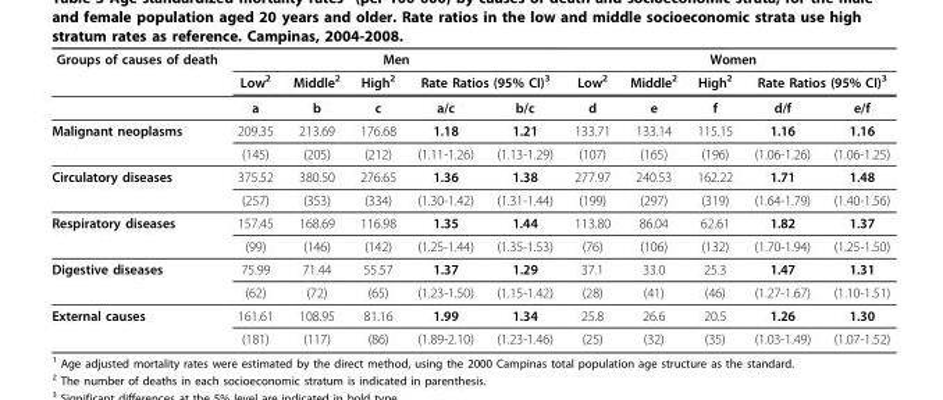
<table><thead><tr><td rowspan="3">Groups of causes of death</td><td colspan="5">Men</td><td colspan="5">Women</td></tr><tr><td rowspan="2">Low2 a</td><td rowspan="2">Middle2 b</td><td rowspan="2">High2 c</td><td colspan="2">Rate Ratios (95% CI)3</td><td rowspan="2">Low2 d</td><td rowspan="2">Middle2 e</td><td rowspan="2">High2 f</td><td colspan="2">Rate Ratios (95% CI)3</td></tr><tr><td>a/c</td><td>b/c</td><td>d/f</td><td>e/f</td></tr></thead><tbody><tr><td rowspan="2">Malignant neoplasms</td><td>209.35</td><td>213.69</td><td>176.68</td><td>1.18</td><td>1.21</td><td>133.71</td><td>133.14</td><td>115.15</td><td>1.16</td><td>1.16</td></tr><tr><td>(145)</td><td>(205)</td><td>(212)</td><td>(1.11-1.26)</td><td>(1.13-1.29)</td><td>(107)</td><td>(165)</td><td>(196)</td><td>(1.06-1.26)</td><td>(1.06-1.25)</td></tr><tr><td rowspan="2">Circulatory diseases</td><td>375.52</td><td>380.50</td><td>276.65</td><td>1.36</td><td>1.38</td><td>277.97</td><td>240.53</td><td>162.22</td><td>1.71</td><td>1.48</td></tr><tr><td>(257)</td><td>(353)</td><td>(334)</td><td>(1.30-1.42)</td><td>(1.31-1.44)</td><td>(199)</td><td>(297)</td><td>(319)</td><td>(1.64-1.79)</td><td>(1.40-1.56)</td></tr><tr><td rowspan="2">Respiratory diseases</td><td>157.45</td><td>168.69</td><td>116.98</td><td>1.35</td><td>1.44</td><td>113.80</td><td>86.04</td><td>62.61</td><td>1.82</td><td>1.37</td></tr><tr><td>(99)</td><td>(146)</td><td>(142)</td><td>(1.25-1.44)</td><td>(1.35-1.53)</td><td>(76)</td><td>(106)</td><td>(132)</td><td>(1.70-1.94)</td><td>(1.25-1.50)</td></tr><tr><td rowspan="2">Digestive diseases</td><td>75.99</td><td>71.44</td><td>55.57</td><td>1.37</td><td>1.29</td><td>37.1</td><td>33.0</td><td>25.3</td><td>1.47</td><td>1.31</td></tr><tr><td>(62)</td><td>(72)</td><td>(65)</td><td>(1.23-1.50)</td><td>(1.15-1.42)</td><td>(28)</td><td>(41)</td><td>(46)</td><td>(1.27-1.67)</td><td>(1.10-1.51)</td></tr><tr><td rowspan="2">External causes</td><td>161.61</td><td>108.95</td><td>81.16</td><td>1.99</td><td>1.34</td><td>25.8</td><td>26.6</td><td>20.5</td><td>1.26</td><td>1.30</td></tr><tr><td>(181)</td><td>(117)</td><td>(86)</td><td>(1.89-2.10)</td><td>(1.23-1.46)</td><td>(25)</td><td>(32)</td><td>(35)</td><td>(1.03-1.49)</td><td>(1.07-1.52)</td></tr></tbody></table>